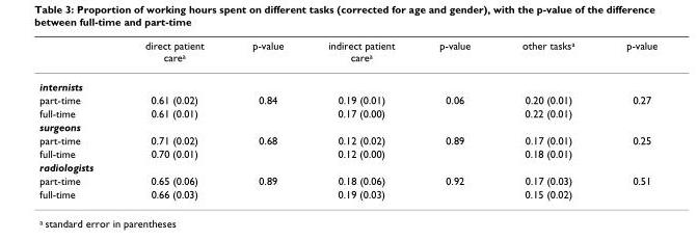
<table><thead><tr><td></td><td>direct patient carea</td><td>p-value</td><td>indirect patient carea</td><td>p-value</td><td>other tasksa</td><td>p-value</td></tr></thead><tbody><tr><td colspan="7">internists</td></tr><tr><td>part-time</td><td>0.61 (0.02)</td><td>0.84</td><td>0.19 (0.01)</td><td>0.06</td><td>0.20 (0.01)</td><td>0.27</td></tr><tr><td>full-time</td><td>0.61 (0.01)</td><td></td><td>0.17 (0.00)</td><td></td><td>0.22 (0.01)</td><td></td></tr><tr><td colspan="7">surgeons</td></tr><tr><td>part-time</td><td>0.71 (0.02)</td><td>0.68</td><td>0.12 (0.02)</td><td>0.89</td><td>0.17 (0.01)</td><td>0.25</td></tr><tr><td>full-time</td><td>0.70 (0.01)</td><td></td><td>0.12 (0.00)</td><td></td><td>0.18 (0.01)</td><td></td></tr><tr><td colspan="7">radiologists</td></tr><tr><td>part-time</td><td>0.65 (0.06)</td><td>0.89</td><td>0.18 (0.06)</td><td>0.92</td><td>0.17 (0.03)</td><td>0.51</td></tr><tr><td>full-time</td><td>0.66 (0.03)</td><td></td><td>0.19 (0.03)</td><td></td><td>0.15 (0.02)</td><td></td></tr></tbody></table>